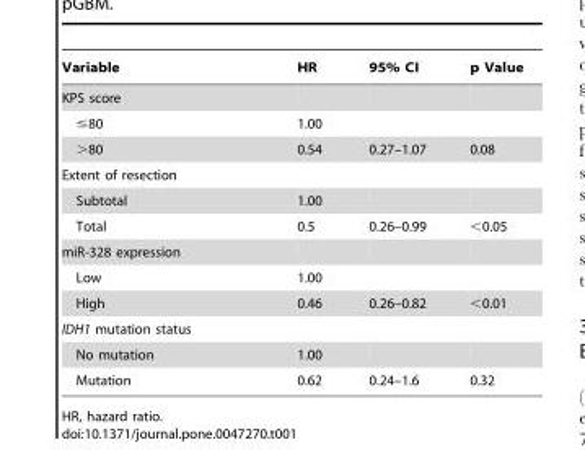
<table><thead><tr><td>Variable</td><td>HR</td><td>95% CI</td><td>p Value</td></tr></thead><tbody><tr><td colspan="4">KPS score</td></tr><tr><td>≤80</td><td>1.00</td><td></td><td></td></tr><tr><td>&gt;80</td><td>0.54</td><td>0.27–1.07</td><td>0.08</td></tr><tr><td colspan="4">Extent of resection</td></tr><tr><td>Subtotal</td><td>1.00</td><td></td><td></td></tr><tr><td>Total</td><td>0.5</td><td>0.26–0.99</td><td>&lt;0.05</td></tr><tr><td colspan="4">miR-328 expression</td></tr><tr><td>Low</td><td>1.00</td><td></td><td></td></tr><tr><td>High</td><td>0.46</td><td>0.26–0.82</td><td>&lt;0.01</td></tr><tr><td colspan="4">IDH1 mutation status</td></tr><tr><td>No mutation</td><td>1.00</td><td></td><td></td></tr><tr><td>Mutation</td><td>0.62</td><td>0.24–1.6</td><td>0.32</td></tr></tbody></table>